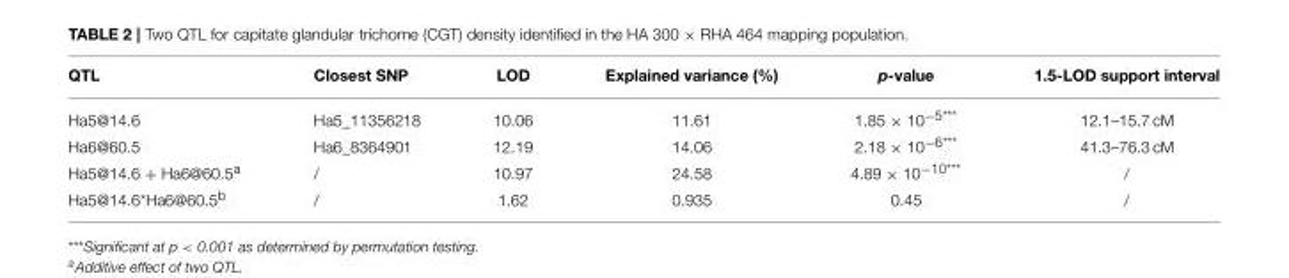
<table><thead><tr><td>QTL</td><td>Closest SNP</td><td>LOD</td><td>Explained variance (%)</td><td>p-value</td><td>1.5-LOD support interval</td></tr></thead><tbody><tr><td>Ha5@14.6</td><td>Ha5_11356218</td><td>10.06</td><td>11.61</td><td>1.85 × 10<sup>−5***</sup></td><td>12.1–15.7 cM</td></tr><tr><td>Ha6@60.5</td><td>Ha6_8364901</td><td>12.19</td><td>14.06</td><td>2.18 × 10<sup>−6***</sup></td><td>41.3–76.3 cM</td></tr><tr><td>Ha5@14.6 + Ha6@60.5<sup>a</sup></td><td>/</td><td>10.97</td><td>24.58</td><td>4.89 × 10<sup>−10***</sup></td><td>/</td></tr><tr><td>Ha5@14.6*Ha6@60.5<sup>b</sup></td><td>/</td><td>1.62</td><td>0.935</td><td>0.45</td><td>/</td></tr></tbody></table>